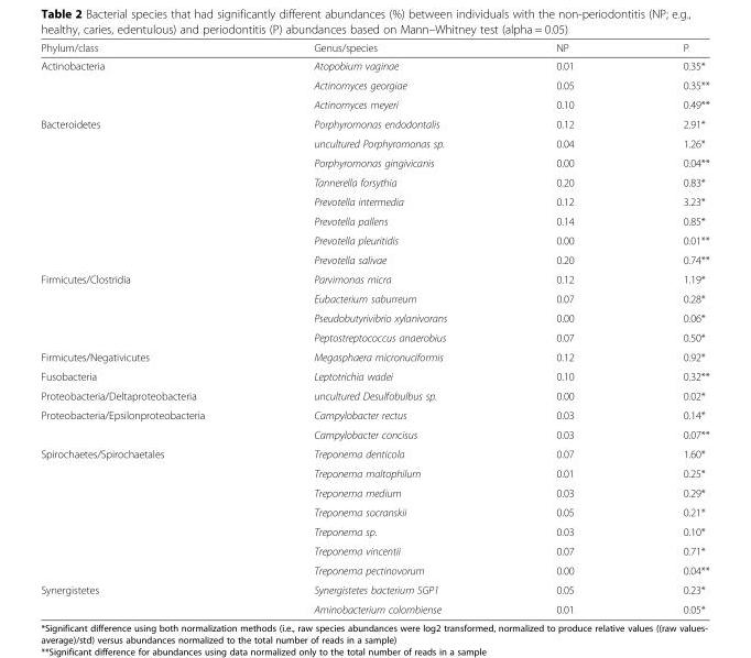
<table><thead><tr><td>Phylum/class</td><td>Genus/species</td><td>NP</td><td>P</td></tr></thead><tbody><tr><td rowspan="3">Actinobacteria</td><td>Atopobium vaginae</td><td>0.01</td><td>0.35*</td></tr><tr><td>Actinomyces georgiae</td><td>0.05</td><td>0.35**</td></tr><tr><td>Actinomyces meyeri</td><td>0.10</td><td>0.49**</td></tr><tr><td rowspan="8">Bacteroidetes</td><td>Porphyromonas endodontalis</td><td>0.12</td><td>2.91*</td></tr><tr><td>uncultured Porphyromonas sp.</td><td>0.04</td><td>1.26*</td></tr><tr><td>Porphyromonas gingivicanis</td><td>0.00</td><td>0.04**</td></tr><tr><td>Tannerella forsythia</td><td>0.20</td><td>0.83*</td></tr><tr><td>Prevotella intermedia</td><td>0.12</td><td>3.23*</td></tr><tr><td>Prevotella pallens</td><td>0.14</td><td>0.85*</td></tr><tr><td>Prevotella pleuritidis</td><td>0.00</td><td>0.01**</td></tr><tr><td>Prevotella salivae</td><td>0.20</td><td>0.74**</td></tr><tr><td rowspan="4">Firmicutes/Clostridia</td><td>Parvimonas micra</td><td>0.12</td><td>1.19*</td></tr><tr><td>Eubacterium saburreum</td><td>0.07</td><td>0.28*</td></tr><tr><td>Pseudobutyrivibrio xylanivorans</td><td>0.00</td><td>0.06*</td></tr><tr><td>Peptostreptococcus anaerobius</td><td>0.07</td><td>0.50*</td></tr><tr><td>Firmicutes/Negativicutes</td><td>Megasphaera micronuciformis</td><td>0.12</td><td>0.92*</td></tr><tr><td>Fusobacteria</td><td>Leptotrichia wadei</td><td>0.10</td><td>0.32**</td></tr><tr><td>Proteobacteria/Deltaproteobacteria</td><td>uncultured Desulfobulbus sp.</td><td>0.00</td><td>0.02*</td></tr><tr><td rowspan="2">Proteobacteria/Epsilonproteobacteria</td><td>Campylobacter rectus</td><td>0.03</td><td>0.14*</td></tr><tr><td>Campylobacter concisus</td><td>0.03</td><td>0.07**</td></tr><tr><td rowspan="7">Spirochaetes/Spirochaetales</td><td>Treponema denticola</td><td>0.07</td><td>1.60*</td></tr><tr><td>Treponema maltophilum</td><td>0.01</td><td>0.25*</td></tr><tr><td>Treponema medium</td><td>0.03</td><td>0.29*</td></tr><tr><td>Treponema socranskii</td><td>0.05</td><td>0.21*</td></tr><tr><td>Treponema sp.</td><td>0.03</td><td>0.10*</td></tr><tr><td>Treponema vincentii</td><td>0.07</td><td>0.71*</td></tr><tr><td>Treponema pectinovorum</td><td>0.00</td><td>0.04**</td></tr><tr><td rowspan="2">Synergistetes</td><td>Synergistetes bacterium SGP1</td><td>0.05</td><td>0.23*</td></tr><tr><td>Aminobacterium colombiense</td><td>0.01</td><td>0.05*</td></tr></tbody></table>